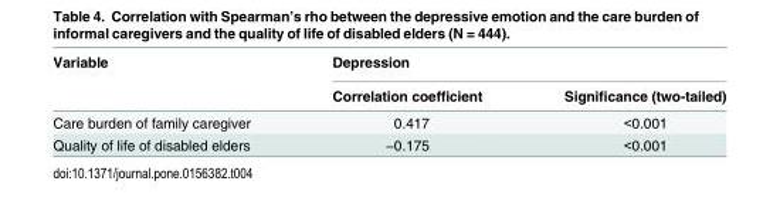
<table><thead><tr><td rowspan="2">Variable</td><td rowspan="2">Depression Correlation coefficient</td><td rowspan="2">Significance (two-tailed)</td></tr><tr></tr></thead><tbody><tr><td>Care burden of family caregiver</td><td>0.417</td><td>&lt;0.001</td></tr><tr><td>Quality of life of disabled elders</td><td>−0.175</td><td>&lt;0.001</td></tr></tbody></table>